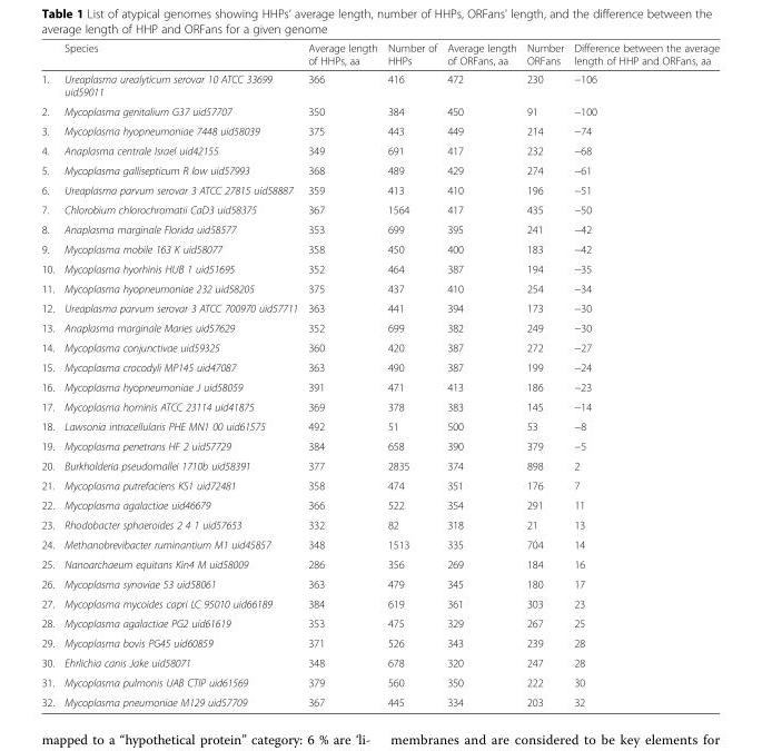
<table><thead><tr><td></td><td>Species</td><td>Average length of HHPs, aa</td><td>Number of HHPs</td><td>Average length of ORFans, aa</td><td>Number ORFans</td><td>Difference between the average length of HHP and ORFans, aa</td></tr></thead><tbody><tr><td>1.</td><td>Ureaplasma urealyticum serovar 10 ATCC 33699 uid59011</td><td>366</td><td>416</td><td>472</td><td>230</td><td>−106</td></tr><tr><td>2.</td><td>Mycoplasma genitalium G37 uid57707</td><td>350</td><td>384</td><td>450</td><td>91</td><td>−100</td></tr><tr><td>3.</td><td>Mycoplasma hyopneumoniae 7448 uid58039</td><td>375</td><td>443</td><td>449</td><td>214</td><td>−74</td></tr><tr><td>4.</td><td>Anaplasma centrale Israel uid42155</td><td>349</td><td>691</td><td>417</td><td>232</td><td>−68</td></tr><tr><td>5.</td><td>Mycoplasma gallisepticum R low uid57993</td><td>368</td><td>489</td><td>429</td><td>274</td><td>−61</td></tr><tr><td>6.</td><td>Ureaplasma parvum serovar 3 ATCC 27815 uid58887</td><td>359</td><td>413</td><td>410</td><td>196</td><td>−51</td></tr><tr><td>7.</td><td>Chlorobium chlorochromatii CaD3 uid58375</td><td>367</td><td>1564</td><td>417</td><td>435</td><td>−50</td></tr><tr><td>8.</td><td>Anaplasma marginale Florida uid58577</td><td>353</td><td>699</td><td>395</td><td>241</td><td>−42</td></tr><tr><td>9.</td><td>Mycoplasma mobile 163 K uid58077</td><td>358</td><td>450</td><td>400</td><td>183</td><td>−42</td></tr><tr><td>10.</td><td>Mycoplasma hyorhinis HUB 1 uid51695</td><td>352</td><td>464</td><td>387</td><td>194</td><td>−35</td></tr><tr><td>11.</td><td>Mycoplasma hyopneumoniae 232 uid58205</td><td>375</td><td>437</td><td>410</td><td>254</td><td>−34</td></tr><tr><td>12.</td><td>Ureaplasma parvum serovar 3 ATCC 700970 uid57711</td><td>363</td><td>441</td><td>394</td><td>173</td><td>−30</td></tr><tr><td>13.</td><td>Anaplasma marginale Maries uid57629</td><td>352</td><td>699</td><td>382</td><td>249</td><td>−30</td></tr><tr><td>14.</td><td>Mycoplasma conjunctivae uid59325</td><td>360</td><td>420</td><td>387</td><td>272</td><td>−27</td></tr><tr><td>15.</td><td>Mycoplasma crocodyli MP145 uid47087</td><td>363</td><td>490</td><td>387</td><td>199</td><td>−24</td></tr><tr><td>16.</td><td>Mycoplasma hyopneumoniae J uid58059</td><td>391</td><td>471</td><td>413</td><td>186</td><td>−23</td></tr><tr><td>17.</td><td>Mycoplasma hominis ATCC 23114 uid41875</td><td>369</td><td>378</td><td>383</td><td>145</td><td>−14</td></tr><tr><td>18.</td><td>Lawsonia intracellularis PHE MN1 00 uid61575</td><td>492</td><td>51</td><td>500</td><td>53</td><td>−8</td></tr><tr><td>19.</td><td>Mycoplasma penetrans HF 2 uid57729</td><td>384</td><td>658</td><td>390</td><td>379</td><td>−5</td></tr><tr><td>20.</td><td>Burkholderia pseudomallei 1710b uid58391</td><td>377</td><td>2835</td><td>374</td><td>898</td><td>2</td></tr><tr><td>21.</td><td>Mycoplasma putrefaciens KS1 uid72481</td><td>358</td><td>474</td><td>351</td><td>176</td><td>7</td></tr><tr><td>22.</td><td>Mycoplasma agalactiae uid46679</td><td>366</td><td>522</td><td>354</td><td>291</td><td>11</td></tr><tr><td>23.</td><td>Rhodobacter sphaeroides 2 4 1 uid57653</td><td>332</td><td>82</td><td>318</td><td>21</td><td>13</td></tr><tr><td>24.</td><td>Methanobrevibacter ruminantium M1 uid45857</td><td>348</td><td>1513</td><td>335</td><td>704</td><td>14</td></tr><tr><td>25.</td><td>Nanoarchaeum equitans Kin4 M uid58009</td><td>286</td><td>356</td><td>269</td><td>184</td><td>16</td></tr><tr><td>26.</td><td>Mycoplasma synoviae 53 uid58061</td><td>363</td><td>479</td><td>345</td><td>180</td><td>17</td></tr><tr><td>27.</td><td>Mycoplasma mycoides capri LC 95010 uid66189</td><td>384</td><td>619</td><td>361</td><td>303</td><td>23</td></tr><tr><td>28.</td><td>Mycoplasma agalactiae PG2 uid61619</td><td>353</td><td>475</td><td>329</td><td>267</td><td>25</td></tr><tr><td>29.</td><td>Mycoplasma bovis PG45 uid60859</td><td>371</td><td>526</td><td>343</td><td>239</td><td>28</td></tr><tr><td>30.</td><td>Ehrlichia canis Jake uid58071</td><td>348</td><td>678</td><td>320</td><td>247</td><td>28</td></tr><tr><td>31.</td><td>Mycoplasma pulmonis UAB CTIP uid61569</td><td>379</td><td>560</td><td>350</td><td>222</td><td>30</td></tr><tr><td>32.</td><td>Mycoplasma pneumoniae M129 uid57709</td><td>367</td><td>445</td><td>334</td><td>203</td><td>32</td></tr></tbody></table>